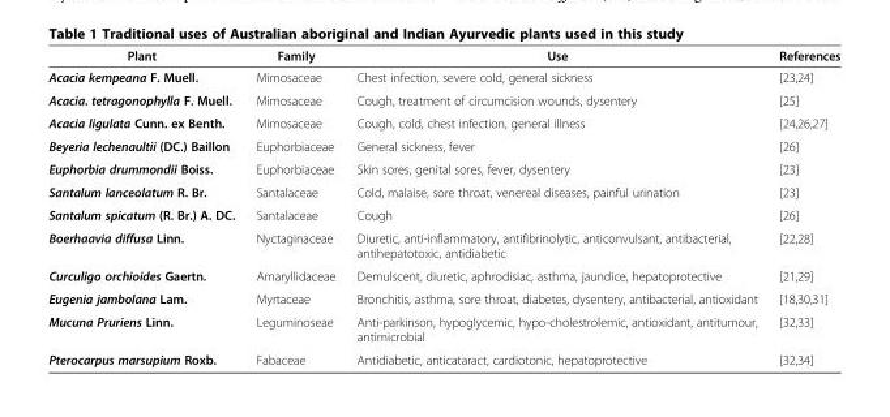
<table><thead><tr><td>Plant</td><td>Family</td><td>Use</td><td>References</td></tr></thead><tbody><tr><td>Acacia kempeana F. Muell.</td><td>Mimosaceae</td><td>Chest infection, severe cold, general sickness</td><td>[23,24]</td></tr><tr><td>Acacia. tetragonophylla F. Muell.</td><td>Mimosaceae</td><td>Cough, treatment of circumcision wounds, dysentery</td><td>[25]</td></tr><tr><td>Acacia ligulata Cunn. ex Benth.</td><td>Mimosaceae</td><td>Cough, cold, chest infection, general illness</td><td>[24,26,27]</td></tr><tr><td>Beyeria lechenaultii (DC.) Baillon</td><td>Euphorbiaceae</td><td>General sickness, fever</td><td>[26]</td></tr><tr><td>Euphorbia drummondii Boiss.</td><td>Euphorbiaceae</td><td>Skin sores, genital sores, fever, dysentery</td><td>[23]</td></tr><tr><td>Santalum lanceolatum R. Br.</td><td>Santalaceae</td><td>Cold, malaise, sore throat, venereal diseases, painful urination</td><td>[23]</td></tr><tr><td>Santalum spicatum (R. Br.) A. DC.</td><td>Santalaceae</td><td>Cough</td><td>[26]</td></tr><tr><td>Boerhaavia diffusa Linn.</td><td>Nyctaginaceae</td><td>Diuretic, anti-inflammatory, antifibrinolytic, anticonvulsant, antibacterial, antihepatotoxic, antidiabetic</td><td>[22,28]</td></tr><tr><td>Curculigo orchioides Gaertn.</td><td>Amaryllidaceae</td><td>Demulscent, diuretic, aphrodisiac, asthma, jaundice, hepatoprotective</td><td>[21,29]</td></tr><tr><td>Eugenia jambolana Lam.</td><td>Myrtaceae</td><td>Bronchitis, asthma, sore throat, diabetes, dysentery, antibacterial, antioxidant</td><td>[18,30,31]</td></tr><tr><td>Mucuna Pruriens Linn.</td><td>Leguminoseae</td><td>Anti-parkinson, hypoglycemic, hypo-cholestrolemic, antioxidant, antitumour, antimicrobial</td><td>[32,33]</td></tr><tr><td>Pterocarpus marsupium Roxb.</td><td>Fabaceae</td><td>Antidiabetic, anticataract, cardiotonic, hepatoprotective</td><td>[32,34]</td></tr></tbody></table>